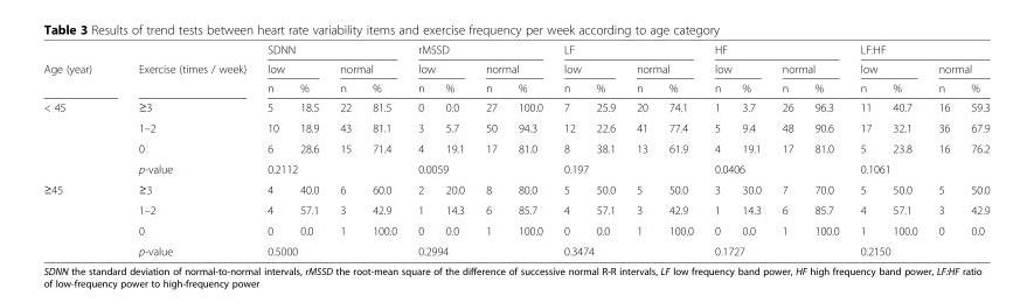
<table><thead><tr><td rowspan="3">Age (year)</td><td rowspan="3">Exercise (times / week)</td><td colspan="4">SDNN</td><td colspan="4">rMSSD</td><td colspan="4">LF</td><td colspan="4">HF</td><td colspan="4">LF:HF</td></tr><tr><td colspan="2">low</td><td colspan="2">normal</td><td colspan="2">low</td><td colspan="2">normal</td><td colspan="2">low</td><td colspan="2">normal</td><td colspan="2">low</td><td colspan="2">normal</td><td colspan="2">low</td><td colspan="2">normal</td></tr><tr><td>n</td><td>%</td><td>n</td><td>%</td><td>n</td><td>%</td><td>n</td><td>%</td><td>n</td><td>%</td><td>n</td><td>%</td><td>n</td><td>%</td><td>n</td><td>%</td><td>n</td><td>%</td><td>n</td><td>%</td></tr></thead><tbody><tr><td rowspan="4">&lt; 45</td><td>≥3</td><td>5</td><td>18.5</td><td>22</td><td>81.5</td><td>0</td><td>0.0</td><td>27</td><td>100.0</td><td>7</td><td>25.9</td><td>20</td><td>74.1</td><td>1</td><td>3.7</td><td>26</td><td>96.3</td><td>11</td><td>40.7</td><td>16</td><td>59.3</td></tr><tr><td>1–2</td><td>10</td><td>18.9</td><td>43</td><td>81.1</td><td>3</td><td>5.7</td><td>50</td><td>94.3</td><td>12</td><td>22.6</td><td>41</td><td>77.4</td><td>5</td><td>9.4</td><td>48</td><td>90.6</td><td>17</td><td>32.1</td><td>36</td><td>67.9</td></tr><tr><td>0</td><td>6</td><td>28.6</td><td>15</td><td>71.4</td><td>4</td><td>19.1</td><td>17</td><td>81.0</td><td>8</td><td>38.1</td><td>13</td><td>61.9</td><td>4</td><td>19.1</td><td>17</td><td>81.0</td><td>5</td><td>23.8</td><td>16</td><td>76.2</td></tr><tr><td>p-value</td><td colspan="4">0.2112</td><td colspan="4">0.0059</td><td colspan="4">0.197</td><td colspan="4">0.0406</td><td colspan="4">0.1061</td></tr><tr><td rowspan="4">≥45</td><td>≥3</td><td>4</td><td>40.0</td><td>6</td><td>60.0</td><td>2</td><td>20.0</td><td>8</td><td>80.0</td><td>5</td><td>50.0</td><td>5</td><td>50.0</td><td>3</td><td>30.0</td><td>7</td><td>70.0</td><td>5</td><td>50.0</td><td>5</td><td>50.0</td></tr><tr><td>1–2</td><td>4</td><td>57.1</td><td>3</td><td>42.9</td><td>1</td><td>14.3</td><td>6</td><td>85.7</td><td>4</td><td>57.1</td><td>3</td><td>42.9</td><td>1</td><td>14.3</td><td>6</td><td>85.7</td><td>4</td><td>57.1</td><td>3</td><td>42.9</td></tr><tr><td>0</td><td>0</td><td>0.0</td><td>1</td><td>100.0</td><td>0</td><td>0.0</td><td>1</td><td>100.0</td><td>0</td><td>0.0</td><td>1</td><td>100.0</td><td>0</td><td>0.0</td><td>1</td><td>100.0</td><td>1</td><td>100.0</td><td>0</td><td>0.0</td></tr><tr><td>p-value</td><td colspan="4">0.5000</td><td colspan="4">0.2994</td><td colspan="4">0.3474</td><td colspan="4">0.1727</td><td colspan="4">0.2150</td></tr></tbody></table>